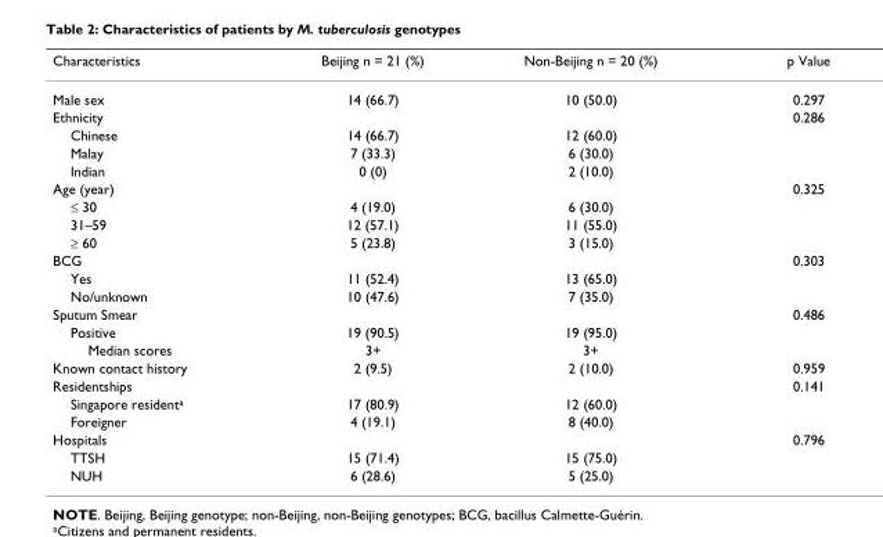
<table><thead><tr><td>Characteristics</td><td>Beijing n = 21 (%)</td><td>Non-Beijing n = 20 (%)</td><td>p Value</td></tr></thead><tbody><tr><td>Male sex</td><td>14 (66.7)</td><td>10 (50.0)</td><td>0.297</td></tr><tr><td>Ethnicity</td><td></td><td></td><td>0.286</td></tr><tr><td>Chinese</td><td>14 (66.7)</td><td>12 (60.0)</td><td></td></tr><tr><td>Malay</td><td>7 (33.3)</td><td>6 (30.0)</td><td></td></tr><tr><td>Indian</td><td>0 (0)</td><td>2 (10.0)</td><td></td></tr><tr><td>Age (year)</td><td></td><td></td><td>0.325</td></tr><tr><td>≤ 30</td><td>4 (19.0)</td><td>6 (30.0)</td><td></td></tr><tr><td>31–59</td><td>12 (57.1)</td><td>11 (55.0)</td><td></td></tr><tr><td>≥ 60</td><td>5 (23.8)</td><td>3 (15.0)</td><td></td></tr><tr><td>BCG</td><td></td><td></td><td>0.303</td></tr><tr><td>Yes</td><td>11 (52.4)</td><td>13 (65.0)</td><td></td></tr><tr><td>No/unknown</td><td>10 (47.6)</td><td>7 (35.0)</td><td></td></tr><tr><td>Sputum Smear</td><td></td><td></td><td>0.486</td></tr><tr><td>Positive</td><td>19 (90.5)</td><td>19 (95.0)</td><td></td></tr><tr><td>Median scores</td><td>3+</td><td>3+</td><td></td></tr><tr><td>Known contact history</td><td>2 (9.5)</td><td>2 (10.0)</td><td>0.959</td></tr><tr><td>Residentships</td><td></td><td></td><td>0.141</td></tr><tr><td>Singapore resident<sup>a</sup></td><td>17 (80.9)</td><td>12 (60.0)</td><td></td></tr><tr><td>Foreigner</td><td>4 (19.1)</td><td>8 (40.0)</td><td></td></tr><tr><td>Hospitals</td><td></td><td></td><td>0.796</td></tr><tr><td>TTSH</td><td>15 (71.4)</td><td>15 (75.0)</td><td></td></tr><tr><td>NUH</td><td>6 (28.6)</td><td>5 (25.0)</td><td></td></tr></tbody></table>